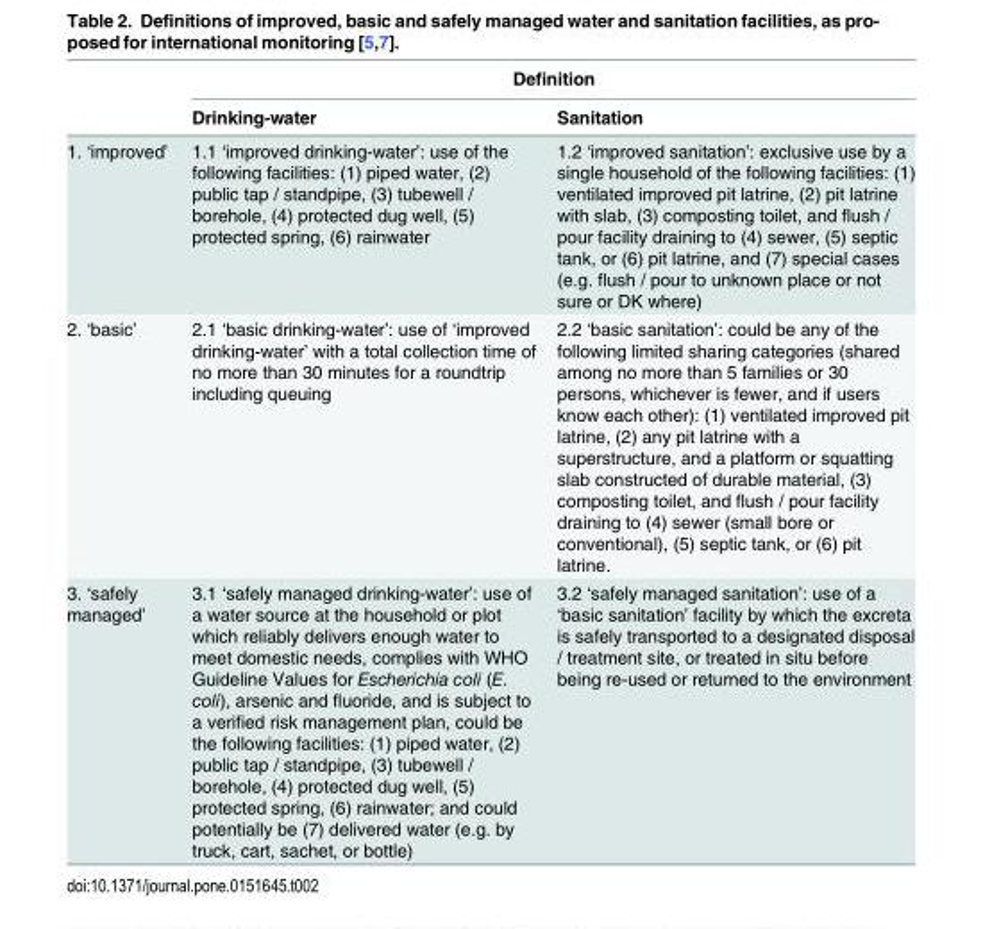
<table><thead><tr><td rowspan="2"></td><td colspan="2">Definition</td></tr><tr><td>Drinking-water</td><td>Sanitation</td></tr></thead><tbody><tr><td>1. ‘improved’</td><td>1.1 ‘improved drinking-water’: use of the following facilities: (1) piped water, (2) public tap / standpipe, (3) tubewell / borehole, (4) protected dug well, (5) protected spring, (6) rainwater</td><td>1.2 ‘improved sanitation’: exclusive use by a single household of the following facilities: (1) ventilated improved pit latrine, (2) pit latrine with slab, (3) composting toilet, and flush / pour facility draining to (4) sewer, (5) septic tank, or (6) pit latrine, and (7) special cases (e.g. flush / pour to unknown place or not sure or DK where)</td></tr><tr><td>2. ‘basic’</td><td>2.1 ‘basic drinking-water’: use of ‘improved drinking-water’ with a total collection time of no more than 30 minutes for a roundtrip including queuing</td><td>2.2 ‘basic sanitation’: could be any of the following limited sharing categories (shared among no more than 5 families or 30 persons, whichever is fewer, and if users know each other): (1) ventilated improved pit latrine, (2) any pit latrine with a superstructure, and a platform or squatting slab constructed of durable material, (3) composting toilet, and flush / pour facility draining to (4) sewer (small bore or conventional), (5) septic tank, or (6) pit latrine.</td></tr><tr><td>3. ‘safely managed’</td><td>3.1 ‘safely managed drinking-water’: use of a water source at the household or plot which reliably delivers enough water to meet domestic needs, complies with WHO Guideline Values for Escherichia coli (E. coli), arsenic and fluoride, and is subject to a verified risk management plan, could be the following facilities: (1) piped water, (2) public tap / standpipe, (3) tubewell / borehole, (4) protected dug well, (5) protected spring, (6) rainwater; and could potentially be (7) delivered water (e.g. by truck, cart, sachet, or bottle)</td><td>3.2 ‘safely managed sanitation’: use of a ‘basic sanitation’ facility by which the excreta is safely transported to a designated disposal / treatment site, or treated in situ before being re-used or returned to the environment</td></tr></tbody></table>